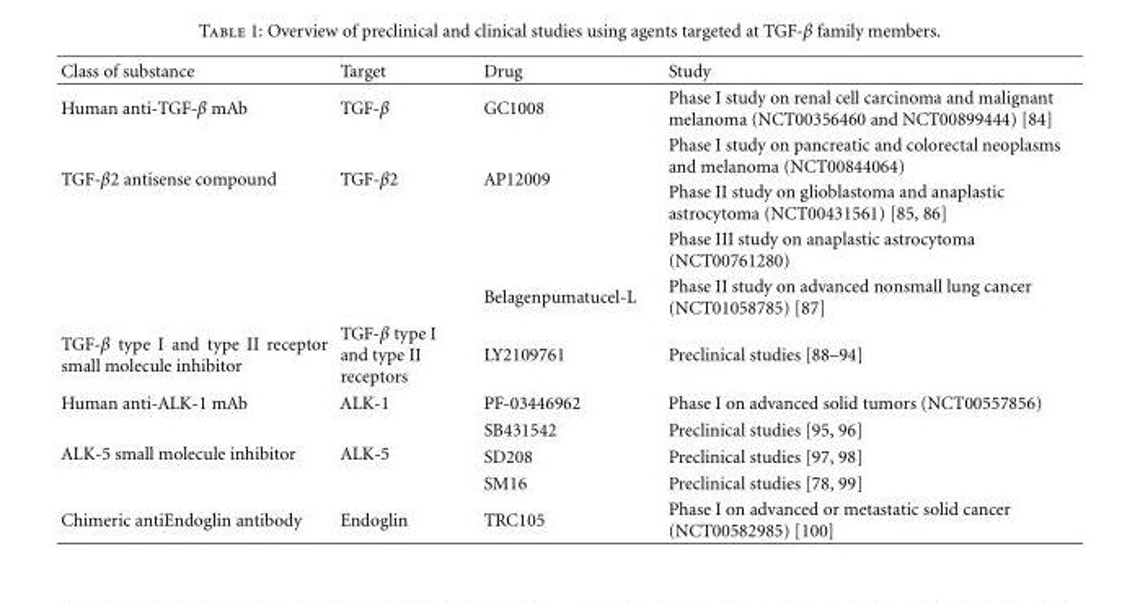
<table><thead><tr><td>Class of substance</td><td>Target</td><td>Drug</td><td>Study</td></tr></thead><tbody><tr><td>Human anti-TGF-β mAb</td><td>TGF-β</td><td>GC1008</td><td>Phase I study on renal cell carcinoma and malignant melanoma (NCT00356460 and NCT00899444) [84]</td></tr><tr><td rowspan="4">TGF-β2 antisense compound</td><td rowspan="3">TGF-β2</td><td rowspan="3">AP12009</td><td>Phase I study on pancreatic and colorectal neoplasms and melanoma (NCT00844064)</td></tr><tr><td>Phase II study on glioblastoma and anaplastic astrocytoma (NCT00431561) [85, 86]</td></tr><tr><td>Phase III study on anaplastic astrocytoma (NCT00761280)</td></tr><tr><td></td><td>Belagenpumatucel-L</td><td>Phase II study on advanced nonsmall lung cancer (NCT01058785) [87]</td></tr><tr><td>TGF-β type I and type II receptor small molecule inhibitor</td><td>TGF-β type I and type II receptors</td><td>LY2109761</td><td>Preclinical studies [88–94]</td></tr><tr><td>Human anti-ALK-1 mAb</td><td>ALK-1</td><td>PF-03446962</td><td>Phase I on advanced solid tumors (NCT00557856)</td></tr><tr><td rowspan="3">ALK-5 small molecule inhibitor</td><td rowspan="3">ALK-5</td><td>SB431542</td><td>Preclinical studies [95, 96]</td></tr><tr><td>SD208</td><td>Preclinical studies [97, 98]</td></tr><tr><td>SM16</td><td>Preclinical studies [78, 99]</td></tr><tr><td>Chimeric antiEndoglin antibody</td><td>Endoglin</td><td>TRC105</td><td>Phase I on advanced or metastatic solid cancer (NCT00582985) [100]</td></tr></tbody></table>